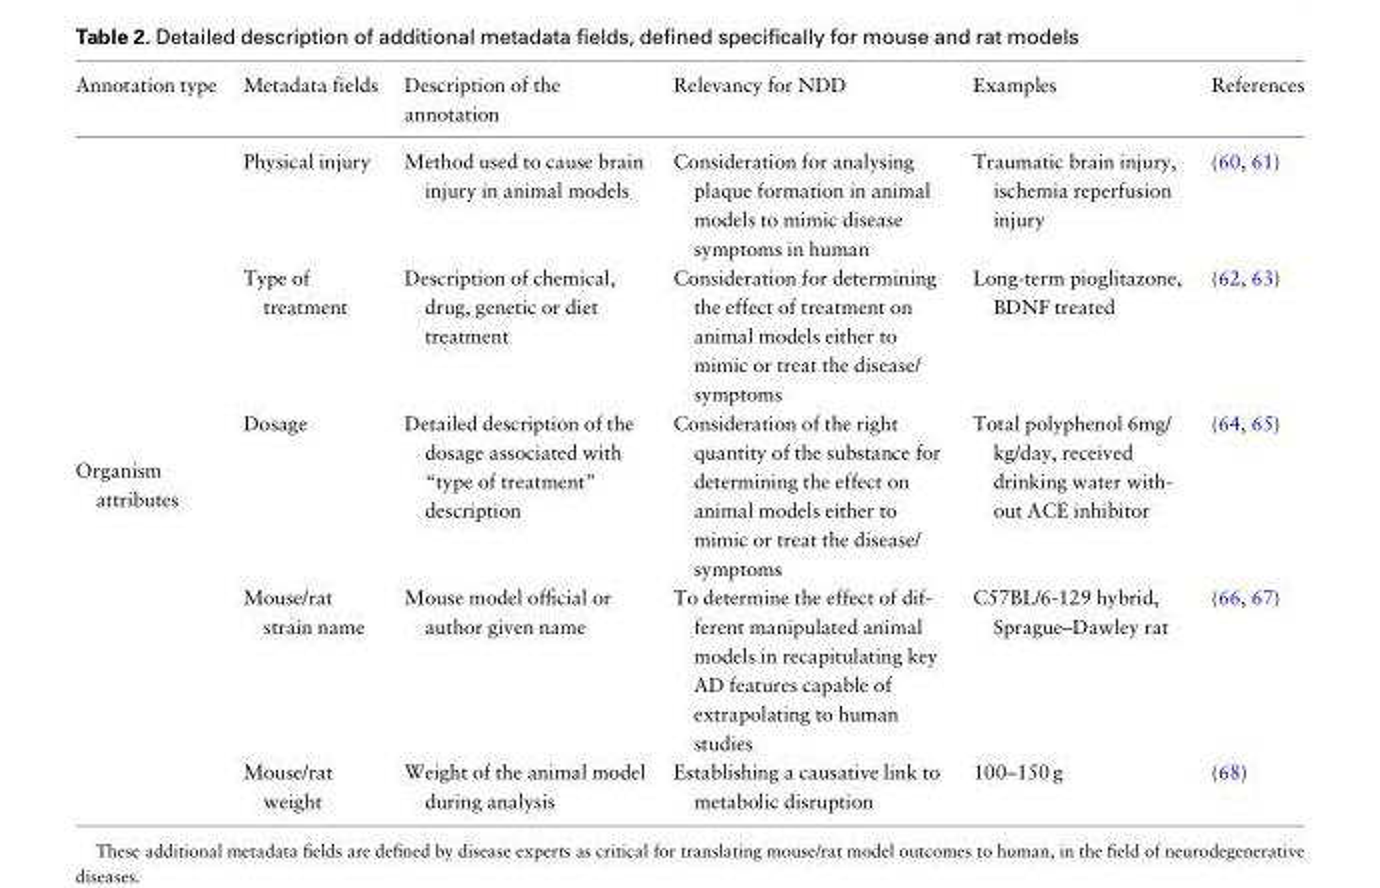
<table><thead><tr><td>Annotation type</td><td>Metadata fields</td><td>Description of the annotation</td><td>Relevancy for NDD</td><td>Examples</td><td>References</td></tr></thead><tbody><tr><td rowspan="5">Organism attributes</td><td>Physical injury</td><td>Method used to cause brain injury in animal models</td><td>Consideration for analysing plaque formation in animal models to mimic disease symptoms in human</td><td>Traumatic brain injury, ischemia reperfusion injury</td><td>(60, 61)</td></tr><tr><td>Type of treatment</td><td>Description of chemical, drug, genetic or diet treatment</td><td>Consideration for determining the effect of treatment on animal models either to mimic or treat the disease/ symptoms</td><td>Long-term pioglitazone, BDNF treated</td><td>(62, 63)</td></tr><tr><td>Dosage</td><td>Detailed description of the dosage associated with “type of treatment” description</td><td>Consideration of the right quantity of the substance for determining the effect on animal models either to mimic or treat the disease/ symptoms</td><td>Total polyphenol 6mg/ kg/day, received drinking water with- out ACE inhibitor</td><td>(64, 65)</td></tr><tr><td>Mouse/rat strain name</td><td>Mouse model official or author given name</td><td>To determine the effect of dif- ferent manipulated animal models in recapitulating key AD features capable of extrapolating to human studies</td><td>C57BL/6-129 hybrid, Sprague–Dawley rat</td><td>(66, 67)</td></tr><tr><td>Mouse/rat weight</td><td>Weight of the animal model during analysis</td><td>Establishing a causative link to metabolic disruption</td><td>100–150 g</td><td>(68)</td></tr></tbody></table>